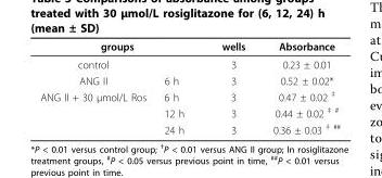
<table><thead><tr><td colspan="2">groups</td><td rowspan="2">wells 3</td><td rowspan="2">Absorbance 0.23 ± 0.01</td></tr><tr><td>control</td><td></td></tr></thead><tbody><tr><td>ANG II</td><td>6 h</td><td>3</td><td>0.52 ± 0.02*</td></tr><tr><td rowspan="3">ANG II + 30 μmol/L Ros</td><td>6 h</td><td>3</td><td>0.47 ± 0.02 <sup>‡</sup></td></tr><tr><td>12 h</td><td>3</td><td>0.44 ± 0.02 <sup>‡ #</sup></td></tr><tr><td>24 h</td><td>3</td><td>0.36 ± 0.03 <sup>‡ ##</sup></td></tr></tbody></table>